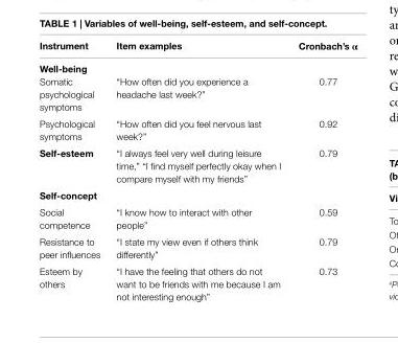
<table><thead><tr><td>instrument</td><td>item examples</td><td>cronbach’s α</td></tr></thead><tbody><tr><td colspan="3">Well-being</td></tr><tr><td>Somatic psychological symptoms</td><td>“How often did you experience a headache last week?”</td><td>0.77</td></tr><tr><td>Psychological symptoms</td><td>“How often did you feel nervous last week?”</td><td>0.92</td></tr><tr><td>self-esteem</td><td>“I always feel very well during leisure time,” “I find myself perfectly okay when I compare myself with my friends”</td><td>0.79</td></tr><tr><td colspan="3">self-concept</td></tr><tr><td>Social competence</td><td>“I know how to interact with other people”</td><td>0.59</td></tr><tr><td>Resistance to peer influences</td><td>“I state my view even if others think differently”</td><td>0.79</td></tr><tr><td>Esteem by others</td><td>“I have the feeling that others do not want to be friends with me because I am not interesting enough”</td><td>0.73</td></tr></tbody></table>